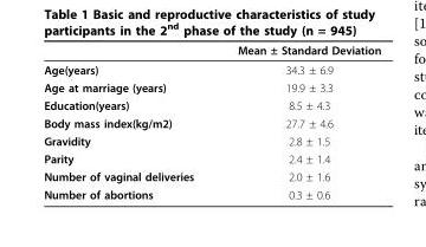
<table><thead><tr><td></td><td>Mean ± Standard Deviation</td></tr></thead><tbody><tr><td>Age(years)</td><td>34.3 ± 6.9</td></tr><tr><td>Age at marriage (years)</td><td>19.9 ± 3.3</td></tr><tr><td>Education(years)</td><td>8.5 ± 4.3</td></tr><tr><td>Body mass index(kg/m2)</td><td>27.7 ± 4.6</td></tr><tr><td>Gravidity</td><td>2.8 ± 1.5</td></tr><tr><td>Parity</td><td>2.4 ± 1.4</td></tr><tr><td>Number of vaginal deliveries</td><td>2.0 ± 1.6</td></tr><tr><td>Number of abortions</td><td>0.3 ± 0.6</td></tr></tbody></table>